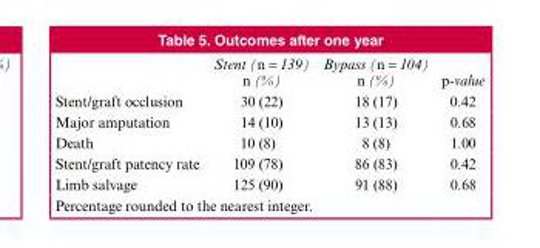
<table><thead><tr><td></td><td>Stent (n = 139) n (%)</td><td>Bypass (n = 104) n (%)</td><td>p-value</td></tr></thead><tbody><tr><td>Stent/graft occlusion</td><td>30 (22)</td><td>18 (17)</td><td>0.42</td></tr><tr><td>Major amputation</td><td>14 (10)</td><td>13 (13)</td><td>0.68</td></tr><tr><td>Death</td><td>10 (8)</td><td>8 (8)</td><td>1.00</td></tr><tr><td>Stent/graft patency rate</td><td>109 (78)</td><td>86 (83)</td><td>0.42</td></tr><tr><td>Limb salvage</td><td>125 (90)</td><td>91 (88)</td><td>0.68</td></tr></tbody></table>